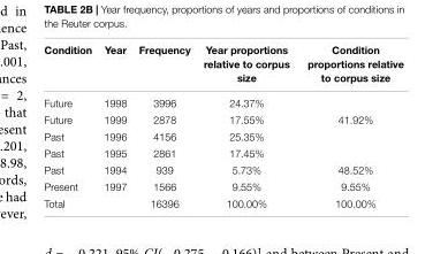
<table><thead><tr><td>Condition</td><td>Year</td><td>Frequency</td><td>Year proportions relative to corpus size</td><td>Condition proportions relative to corpus size</td></tr></thead><tbody><tr><td>Future</td><td>1998</td><td>3996</td><td>24.37%</td><td></td></tr><tr><td>Future</td><td>1999</td><td>2878</td><td>17.55%</td><td>41.92%</td></tr><tr><td>Past</td><td>1996</td><td>4156</td><td>25.35%</td><td></td></tr><tr><td>Past</td><td>1995</td><td>2861</td><td>17.45%</td><td></td></tr><tr><td>Past</td><td>1994</td><td>939</td><td>5.73%</td><td>48.52%</td></tr><tr><td>Present</td><td>1997</td><td>1566</td><td>9.55%</td><td>9.55%</td></tr><tr><td>Total</td><td></td><td>16396</td><td>100.00%</td><td>100.00%</td></tr></tbody></table>